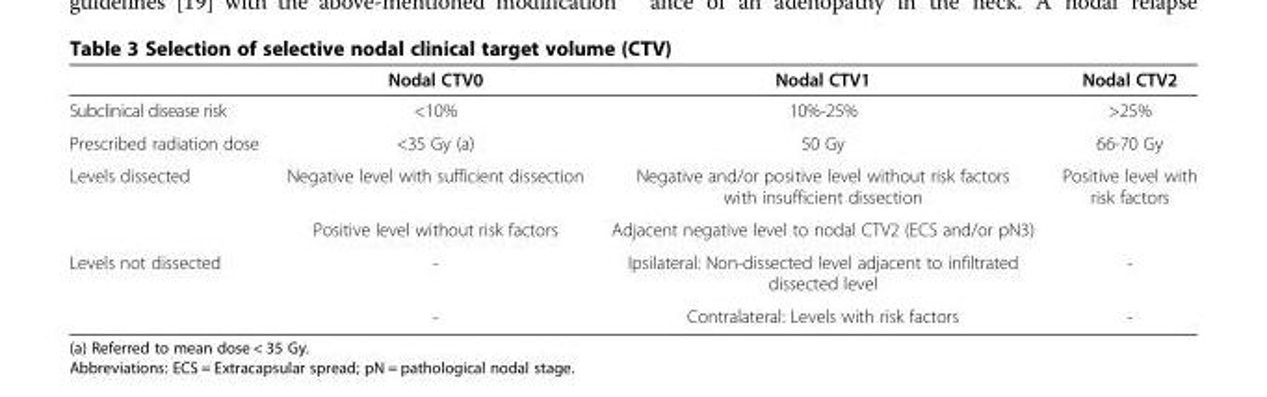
<table><thead><tr><td></td><td>Nodal CTV0</td><td>Nodal CTV1</td><td>Nodal CTV2</td></tr></thead><tbody><tr><td>Subclinical disease risk</td><td>&lt;10%</td><td>10%-25%</td><td>&gt;25%</td></tr><tr><td>Prescribed radiation dose</td><td>&lt;35 Gy (a)</td><td>50 Gy</td><td>66-70 Gy</td></tr><tr><td rowspan="2">Levels dissected</td><td>Negative level with sufficient dissection</td><td>Negative and/or positive level without risk factors with insufficient dissection</td><td rowspan="2">Positive level with risk factors</td></tr><tr><td>Positive level without risk factors</td><td>Adjacent negative level to nodal CTV2 (ECS and/or pN3)</td></tr><tr><td rowspan="2">Levels not dissected</td><td>-</td><td>Ipsilateral: Non-dissected level adjacent to infiltrated dissected level</td><td>-</td></tr><tr><td>-</td><td>Contralateral: Levels with risk factors</td><td>-</td></tr></tbody></table>